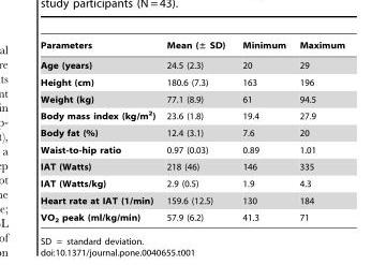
<table><thead><tr><td>Parameters</td><td>Mean (± SD)</td><td>Minimum</td><td>Maximum</td></tr></thead><tbody><tr><td>Age (years)</td><td>24.5 (2.3)</td><td>20</td><td>29</td></tr><tr><td>Height (cm)</td><td>180.6 (7.3)</td><td>163</td><td>196</td></tr><tr><td>Weight (kg)</td><td>77.1 (8.9)</td><td>61</td><td>94.5</td></tr><tr><td>Body mass index (kg/m<sup>2</sup>)</td><td>23.6 (1.8)</td><td>19.4</td><td>27.9</td></tr><tr><td>Body fat (%)</td><td>12.4 (3.1)</td><td>7.6</td><td>20</td></tr><tr><td>Waist-to-hip ratio</td><td>0.97 (0.03)</td><td>0.89</td><td>1.01</td></tr><tr><td>IAT (Watts)</td><td>218 (46)</td><td>146</td><td>335</td></tr><tr><td>IAT (Watts/kg)</td><td>2.9 (0.5)</td><td>1.9</td><td>4.3</td></tr><tr><td>Heart rate at IAT (1/min)</td><td>159.6 (12.5)</td><td>130</td><td>184</td></tr><tr><td>VO<sub>2</sub> peak (ml/kg/min)</td><td>57.9 (6.2)</td><td>41.3</td><td>71</td></tr></tbody></table>